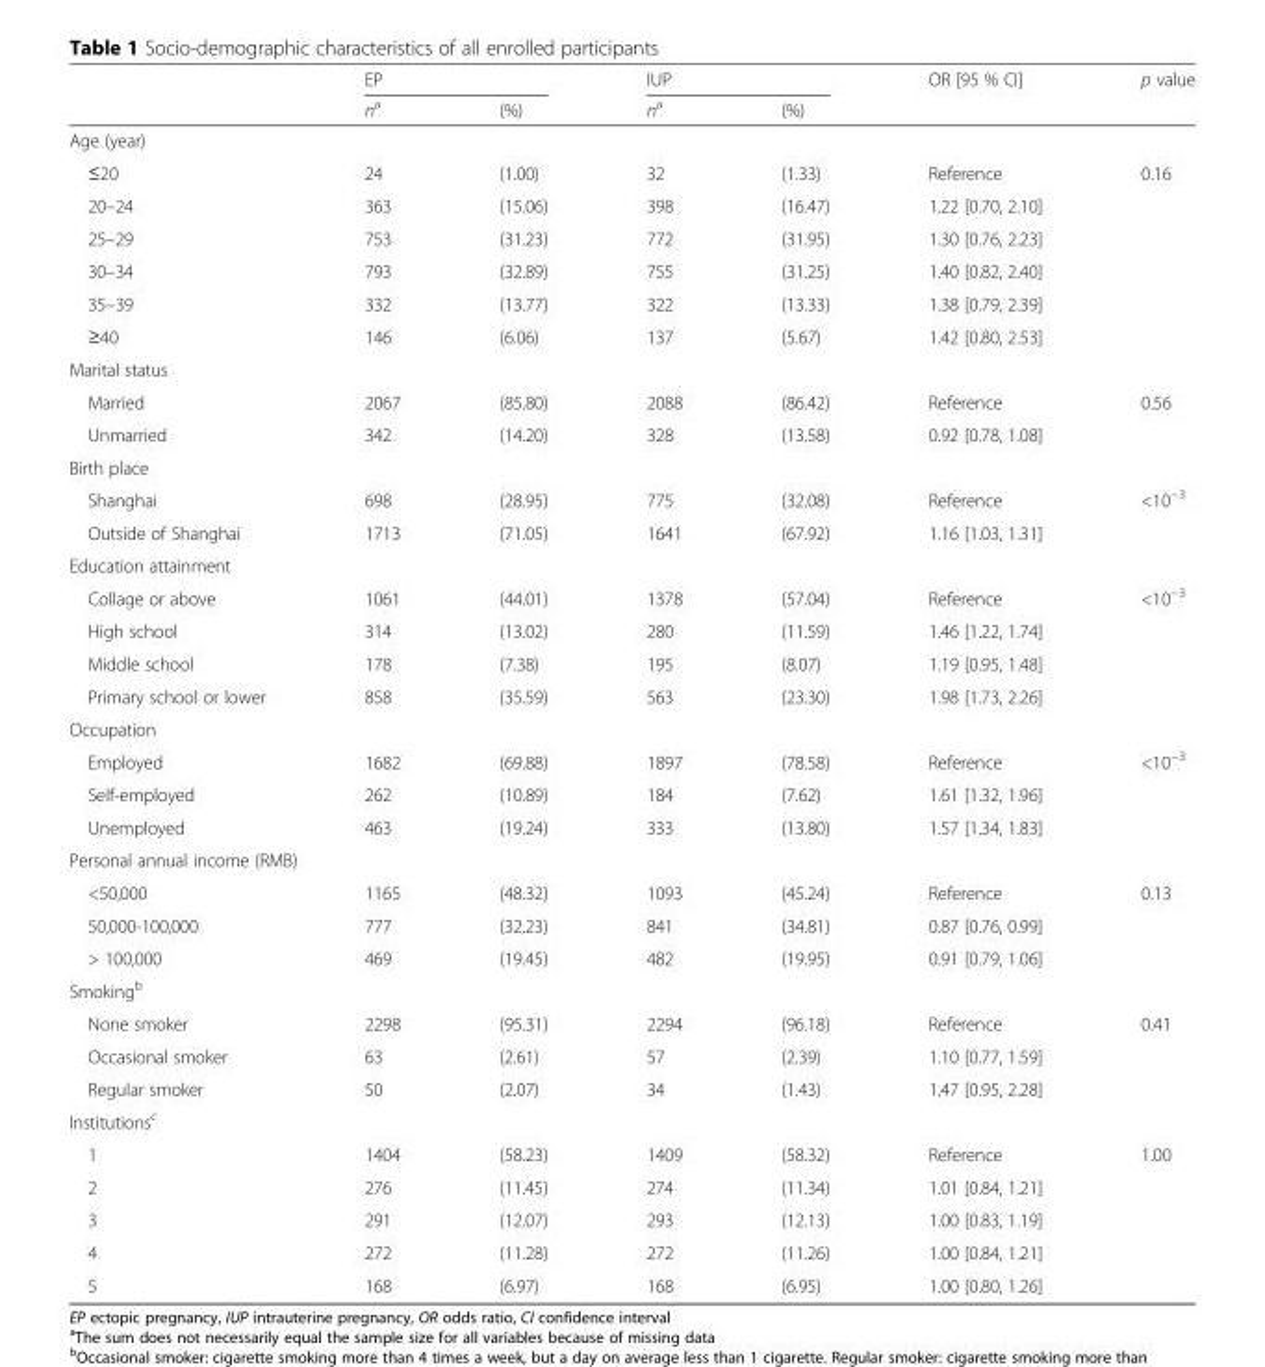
<table><thead><tr><td rowspan="2"></td><td colspan="2">EP</td><td colspan="2">IUP</td><td rowspan="2">OR [95 % CI]</td><td rowspan="2">p value</td></tr><tr><td>n<sup>a</sup></td><td>(%)</td><td>n<sup>a</sup></td><td>(%)</td></tr></thead><tbody><tr><td colspan="7">Age (year)</td></tr><tr><td>≤20</td><td>24</td><td>(1.00)</td><td>32</td><td>(1.33)</td><td>Reference</td><td rowspan="6">0.16</td></tr><tr><td>20–24</td><td>363</td><td>(15.06)</td><td>398</td><td>(16.47)</td><td>1.22 [0.70, 2.10]</td></tr><tr><td>25–29</td><td>753</td><td>(31.23)</td><td>772</td><td>(31.95)</td><td>1.30 [0.76, 2.23]</td></tr><tr><td>30–34</td><td>793</td><td>(32.89)</td><td>755</td><td>(31.25)</td><td>1.40 [0.82, 2.40]</td></tr><tr><td>35–39</td><td>332</td><td>(13.77)</td><td>322</td><td>(13.33)</td><td>1.38 [0.79, 2.39]</td></tr><tr><td>≥40</td><td>146</td><td>(6.06)</td><td>137</td><td>(5.67)</td><td>1.42 [0.80, 2.53]</td></tr><tr><td colspan="7">Marital status</td></tr><tr><td>Married</td><td>2067</td><td>(85.80)</td><td>2088</td><td>(86.42)</td><td>Reference</td><td rowspan="2">0.56</td></tr><tr><td>Unmarried</td><td>342</td><td>(14.20)</td><td>328</td><td>(13.58)</td><td>0.92 [0.78, 1.08]</td></tr><tr><td colspan="7">Birth place</td></tr><tr><td>Shanghai</td><td>698</td><td>(28.95)</td><td>775</td><td>(32.08)</td><td>Reference</td><td rowspan="2">&lt;10<sup>−3</sup></td></tr><tr><td>Outside of Shanghai</td><td>1713</td><td>(71.05)</td><td>1641</td><td>(67.92)</td><td>1.16 [1.03, 1.31]</td></tr><tr><td colspan="7">Education attainment</td></tr><tr><td>Collage or above</td><td>1061</td><td>(44.01)</td><td>1378</td><td>(57.04)</td><td>Reference</td><td rowspan="4">&lt;10<sup>−3</sup></td></tr><tr><td>High school</td><td>314</td><td>(13.02)</td><td>280</td><td>(11.59)</td><td>1.46 [1.22, 1.74]</td></tr><tr><td>Middle school</td><td>178</td><td>(7.38)</td><td>195</td><td>(8.07)</td><td>1.19 [0.95, 1.48]</td></tr><tr><td>Primary school or lower</td><td>858</td><td>(35.59)</td><td>563</td><td>(23.30)</td><td>1.98 [1.73, 2.26]</td></tr><tr><td colspan="7">Occupation</td></tr><tr><td>Employed</td><td>1682</td><td>(69.88)</td><td>1897</td><td>(78.58)</td><td>Reference</td><td rowspan="3">&lt;10<sup>−3</sup></td></tr><tr><td>Self-employed</td><td>262</td><td>(10.89)</td><td>184</td><td>(7.62)</td><td>1.61 [1.32, 1.96]</td></tr><tr><td>Unemployed</td><td>463</td><td>(19.24)</td><td>333</td><td>(13.80)</td><td>1.57 [1.34, 1.83]</td></tr><tr><td colspan="7">Personal annual income (RMB)</td></tr><tr><td>&lt;50,000</td><td>1165</td><td>(48.32)</td><td>1093</td><td>(45.24)</td><td>Reference</td><td rowspan="3">0.13</td></tr><tr><td>50,000-100,000</td><td>777</td><td>(32.23)</td><td>841</td><td>(34.81)</td><td>0.87 [0.76, 0.99]</td></tr><tr><td>&gt; 100,000</td><td>469</td><td>(19.45)</td><td>482</td><td>(19.95)</td><td>0.91 [0.79, 1.06]</td></tr><tr><td colspan="7">Smoking<sup>b</sup></td></tr><tr><td>None smoker</td><td>2298</td><td>(95.31)</td><td>2294</td><td>(96.18)</td><td>Reference</td><td rowspan="3">0.41</td></tr><tr><td>Occasional smoker</td><td>63</td><td>(2.61)</td><td>57</td><td>(2.39)</td><td>1.10 [0.77, 1.59]</td></tr><tr><td>Regular smoker</td><td>50</td><td>(2.07)</td><td>34</td><td>(1.43)</td><td>1.47 [0.95, 2.28]</td></tr><tr><td colspan="7">Institutions<sup>c</sup></td></tr><tr><td>1</td><td>1404</td><td>(58.23)</td><td>1409</td><td>(58.32)</td><td>Reference</td><td rowspan="5">1.00</td></tr><tr><td>2</td><td>276</td><td>(11.45)</td><td>274</td><td>(11.34)</td><td>1.01 [0.84, 1.21]</td></tr><tr><td>3</td><td>291</td><td>(12.07)</td><td>293</td><td>(12.13)</td><td>1.00 [0.83, 1.19]</td></tr><tr><td>4</td><td>272</td><td>(11.28)</td><td>272</td><td>(11.26)</td><td>1.00 [0.84, 1.21]</td></tr><tr><td>5</td><td>168</td><td>(6.97)</td><td>168</td><td>(6.95)</td><td>1.00 [0.80, 1.26]</td></tr></tbody></table>